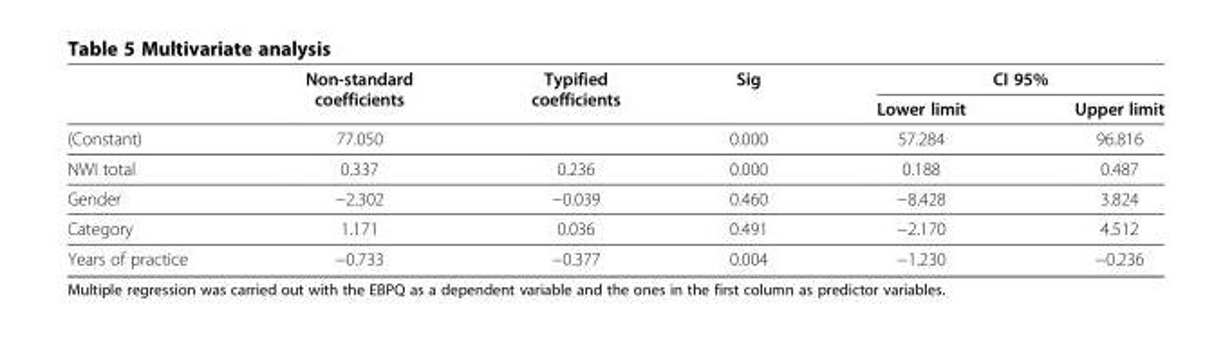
<table><thead><tr><td rowspan="2"></td><td rowspan="2">Non-standard coefficients</td><td rowspan="2">Typified coefficients</td><td rowspan="2">Sig</td><td colspan="2">CI 95%</td></tr><tr><td>Lower limit</td><td>Upper limit</td></tr></thead><tbody><tr><td>(Constant)</td><td>77.050</td><td></td><td>0.000</td><td>57.284</td><td>96.816</td></tr><tr><td>NWI total</td><td>0.337</td><td>0.236</td><td>0.000</td><td>0.188</td><td>0.487</td></tr><tr><td>Gender</td><td>−2.302</td><td>−0.039</td><td>0.460</td><td>−8.428</td><td>3.824</td></tr><tr><td>Category</td><td>1.171</td><td>0.036</td><td>0.491</td><td>−2.170</td><td>4.512</td></tr><tr><td>Years of practice</td><td>−0.733</td><td>−0.377</td><td>0.004</td><td>−1.230</td><td>−0.236</td></tr></tbody></table>